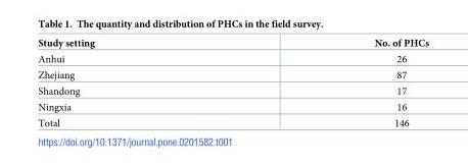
<table><thead><tr><td>Study setting</td><td>No. of PHCs</td></tr></thead><tbody><tr><td>Anhui</td><td>26</td></tr><tr><td>Zhejiang</td><td>87</td></tr><tr><td>Shandong</td><td>17</td></tr><tr><td>Ningxia</td><td>16</td></tr><tr><td>Total</td><td>146</td></tr></tbody></table>